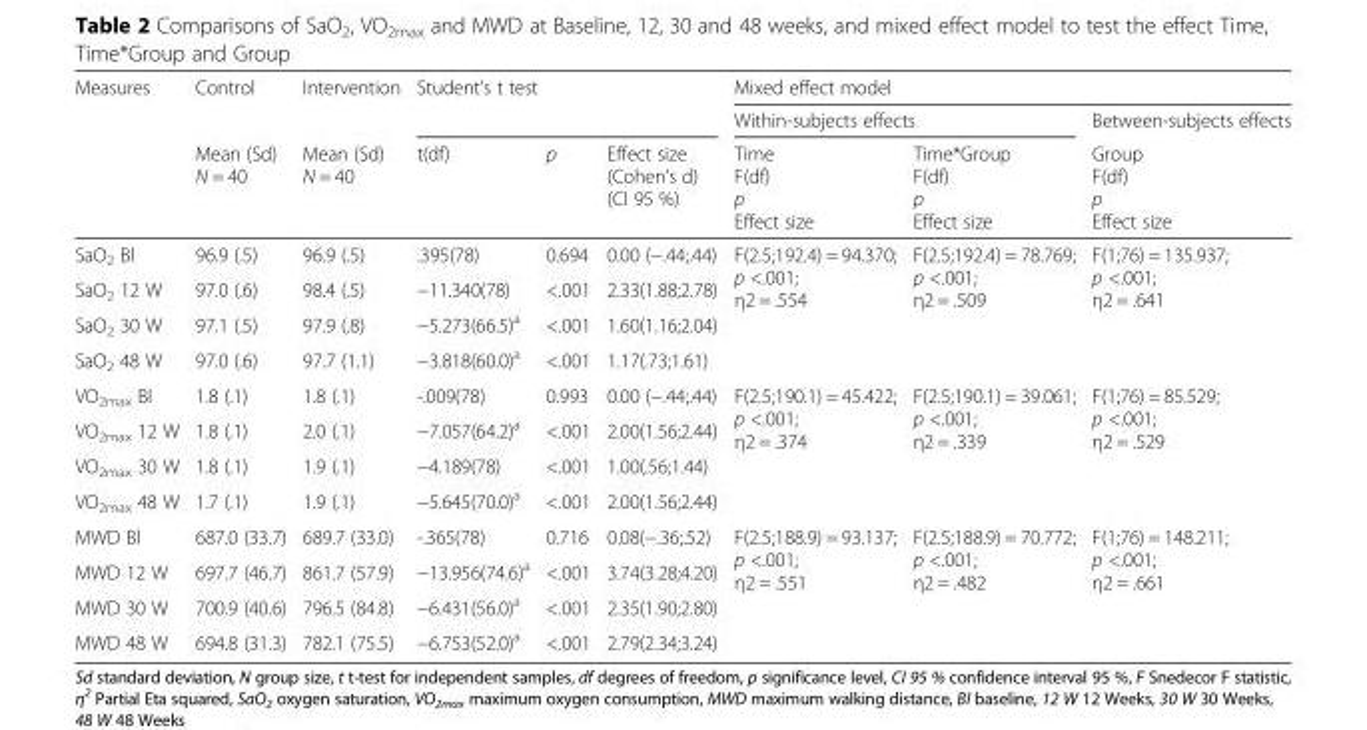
<table><thead><tr><td rowspan="3">Measures</td><td rowspan="3">Control Mean (Sd) N = 40</td><td rowspan="3">Intervention Mean (Sd) N = 40</td><td rowspan="2" colspan="3">Student’s t test</td><td colspan="3">Mixed effect model</td></tr><tr><td colspan="2">Within-subjects effects</td><td rowspan="2">Between-subjects effects Group F(df) p Effect size</td></tr><tr><td>t(df)</td><td>p</td><td>Effect size (Cohen’s d) (CI 95 %)</td><td>Time F(df) p Effect size</td><td>Time*Group F(df) p Effect size</td></tr></thead><tbody><tr><td>SaO<sub>2</sub> Bl</td><td>96.9 (.5)</td><td>96.9 (.5)</td><td>.395(78)</td><td>0.694</td><td>0.00 (−.44;.44)</td><td rowspan="4">F(2.5;192.4) = 94.370; p &lt;.001; η2 = .554</td><td rowspan="4">F(2.5;192.4) = 78.769; p &lt;.001; η2 = .509</td><td rowspan="4">F(1;76) = 135.937; p &lt;.001; η2 = .641</td></tr><tr><td>SaO<sub>2</sub> 12 W</td><td>97.0 (.6)</td><td>98.4 (.5)</td><td>−11.340(78)</td><td>&lt;.001</td><td>2.33(1.88;2.78)</td></tr><tr><td>SaO<sub>2</sub> 30 W</td><td>97.1 (.5)</td><td>97.9 (.8)</td><td>−5.273(66.5)<sup>a</sup></td><td>&lt;.001</td><td>1.60(1.16;2.04)</td></tr><tr><td>SaO<sub>2</sub> 48 W</td><td>97.0 (.6)</td><td>97.7 (1.1)</td><td>−3.818(60.0)<sup>a</sup></td><td>&lt;.001</td><td>1.17(.73;1.61)</td></tr><tr><td>VO<sub>2max</sub> Bl</td><td>1.8 (.1)</td><td>1.8 (.1)</td><td>-.009(78)</td><td>0.993</td><td>0.00 (−.44;.44)</td><td rowspan="4">F(2.5;190.1) = 45.422; p &lt;.001; η2 = .374</td><td rowspan="4">F(2.5;190.1) = 39.061; p &lt;.001; η2 = .339</td><td rowspan="4">F(1;76) = 85.529; p &lt;.001; η2 = .529</td></tr><tr><td>VO<sub>2max</sub> 12 W</td><td>1.8 (.1)</td><td>2.0 (.1)</td><td>−7.057(64.2)<sup>a</sup></td><td>&lt;.001</td><td>2.00(1.56;2.44)</td></tr><tr><td>VO<sub>2max</sub> 30 W</td><td>1.8 (.1)</td><td>1.9 (.1)</td><td>−4.189(78)</td><td>&lt;.001</td><td>1.00(.56;1.44)</td></tr><tr><td>VO<sub>2max</sub> 48 W</td><td>1.7 (.1)</td><td>1.9 (.1)</td><td>−5.645(70.0)<sup>a</sup></td><td>&lt;.001</td><td>2.00(1.56;2.44)</td></tr><tr><td>MWD Bl</td><td>687.0 (33.7)</td><td>689.7 (33.0)</td><td>-.365(78)</td><td>0.716</td><td>0.08(−.36;.52)</td><td rowspan="4">F(2.5;188.9) = 93.137; p &lt;.001; η2 = .551</td><td rowspan="4">F(2.5;188.9) = 70.772; p &lt;.001; η2 = .482</td><td rowspan="4">F(1;76) = 148.211; p &lt;.001; η2 = .661</td></tr><tr><td>MWD 12 W</td><td>697.7 (46.7)</td><td>861.7 (57.9)</td><td>−13.956(74.6)<sup>a</sup></td><td>&lt;.001</td><td>3.74(3.28;4.20)</td></tr><tr><td>MWD 30 W</td><td>700.9 (40.6)</td><td>796.5 (84.8)</td><td>−6.431(56.0)<sup>a</sup></td><td>&lt;.001</td><td>2.35(1.90;2.80)</td></tr><tr><td>MWD 48 W</td><td>694.8 (31.3)</td><td>782.1 (75.5)</td><td>−6.753(52.0)<sup>a</sup></td><td>&lt;.001</td><td>2.79(2.34;3.24)</td></tr></tbody></table>